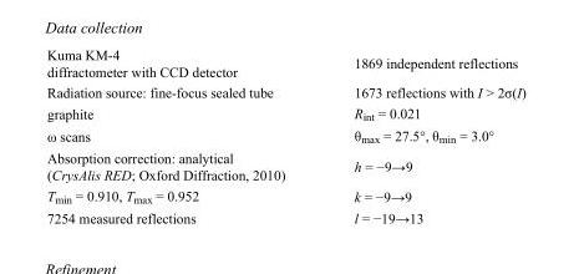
<table><tbody><tr><td>Kuma KM-4 diffractometer with CCD detector</td><td>1869 independent reflections</td></tr><tr><td>Radiation source: fine-focus sealed tube</td><td>1673 reflections with I &gt; 2σ(I)</td></tr><tr><td>graphite</td><td>R<sub>int</sub> = 0.021</td></tr><tr><td>ω scans</td><td>θ<sub>max</sub> = 27.5°, θ<sub>min</sub> = 3.0°</td></tr><tr><td>Absorption correction: analytical (CrysAlis RED; Oxford Diffraction, 2010)</td><td>h = −9→9</td></tr><tr><td>T<sub>min</sub> = 0.910, T<sub>max</sub> = 0.952</td><td>k = −9→9</td></tr><tr><td>7254 measured reflections</td><td>l = −19→13</td></tr></tbody></table>